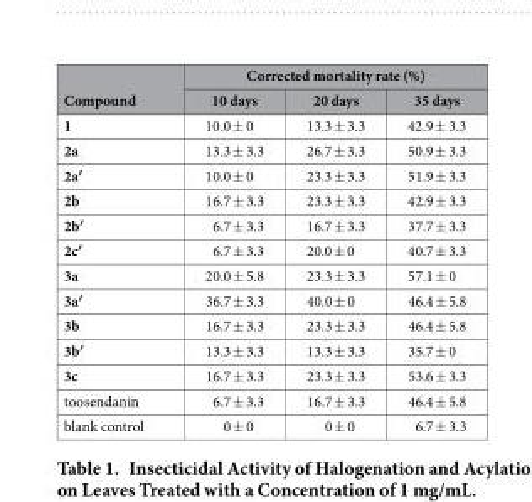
<table><thead><tr><td rowspan="2">Compound</td><td colspan="3">Corrected mortality rate (%)</td></tr><tr><td>10 days</td><td>20 days</td><td>35 days</td></tr></thead><tbody><tr><td>1</td><td>10.0 ± 0</td><td>13.3 ± 3.3</td><td>42.9 ± 3.3</td></tr><tr><td>2a</td><td>13.3 ± 3.3</td><td>26.7 ± 3.3</td><td>50.9 ± 3.3</td></tr><tr><td>2a′</td><td>10.0 ± 0</td><td>23.3 ± 3.3</td><td>51.9 ± 3.3</td></tr><tr><td>2b</td><td>16.7 ± 3.3</td><td>23.3 ± 3.3</td><td>42.9 ± 3.3</td></tr><tr><td>2b′</td><td>6.7 ± 3.3</td><td>16.7 ± 3.3</td><td>37.7 ± 3.3</td></tr><tr><td>2c′</td><td>6.7 ± 3.3</td><td>20.0 ± 0</td><td>40.7 ± 3.3</td></tr><tr><td>3a</td><td>20.0 ± 5.8</td><td>23.3 ± 3.3</td><td>57.1 ± 0</td></tr><tr><td>3a′</td><td>36.7 ± 3.3</td><td>40.0 ± 0</td><td>46.4 ± 5.8</td></tr><tr><td>3b</td><td>16.7 ± 3.3</td><td>23.3 ± 3.3</td><td>46.4 ± 5.8</td></tr><tr><td>3b′</td><td>13.3 ± 3.3</td><td>13.3 ± 3.3</td><td>35.7 ± 0</td></tr><tr><td>3c</td><td>16.7 ± 3.3</td><td>23.3 ± 3.3</td><td>53.6 ± 3.3</td></tr><tr><td>toosendanin</td><td>6.7 ± 3.3</td><td>16.7 ± 3.3</td><td>46.4 ± 5.8</td></tr><tr><td>blank control</td><td>0 ± 0</td><td>0 ± 0</td><td>6.7 ± 3.3</td></tr></tbody></table>